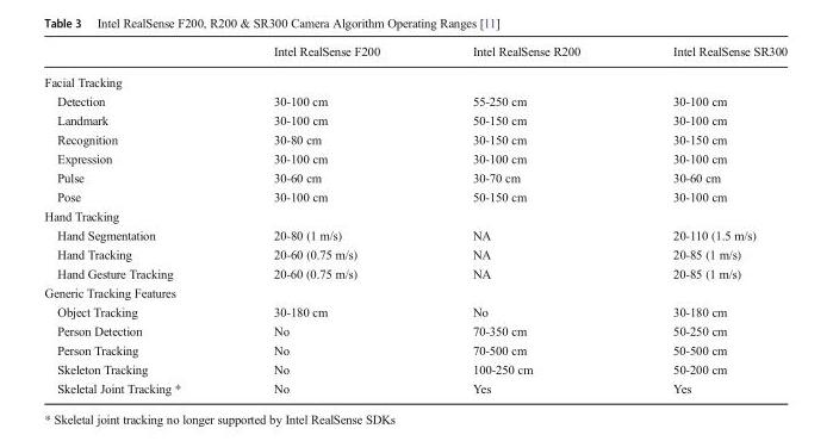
<table><thead><tr><td></td><td>Intel RealSense F200</td><td>Intel RealSense R200</td><td>Intel RealSense SR300</td></tr></thead><tbody><tr><td colspan="4">Facial Tracking</td></tr><tr><td>Detection</td><td>30-100 cm</td><td>55-250 cm</td><td>30-100 cm</td></tr><tr><td>Landmark</td><td>30-100 cm</td><td>50-150 cm</td><td>30-100 cm</td></tr><tr><td>Recognition</td><td>30-80 cm</td><td>30-150 cm</td><td>30-150 cm</td></tr><tr><td>Expression</td><td>30-100 cm</td><td>30-100 cm</td><td>30-100 cm</td></tr><tr><td>Pulse</td><td>30-60 cm</td><td>30-70 cm</td><td>30-60 cm</td></tr><tr><td>Pose</td><td>30-100 cm</td><td>50-150 cm</td><td>30-100 cm</td></tr><tr><td colspan="4">Hand Tracking</td></tr><tr><td>Hand Segmentation</td><td>20-80 (1 m/s)</td><td>NA</td><td>20-110 (1.5 m/s)</td></tr><tr><td>Hand Tracking</td><td>20-60 (0.75 m/s)</td><td>NA</td><td>20-85 (1 m/s)</td></tr><tr><td>Hand Gesture Tracking</td><td>20-60 (0.75 m/s)</td><td>NA</td><td>20-85 (1 m/s)</td></tr><tr><td colspan="4">Generic Tracking Features</td></tr><tr><td>Object Tracking</td><td>30-180 cm</td><td>No</td><td>30-180 cm</td></tr><tr><td>Person Detection</td><td>No</td><td>70-350 cm</td><td>50-250 cm</td></tr><tr><td>Person Tracking</td><td>No</td><td>70-500 cm</td><td>50-500 cm</td></tr><tr><td>Skeleton Tracking</td><td>No</td><td>100-250 cm</td><td>50-200 cm</td></tr><tr><td>Skeletal Joint Tracking *</td><td>No</td><td>Yes</td><td>Yes</td></tr></tbody></table>